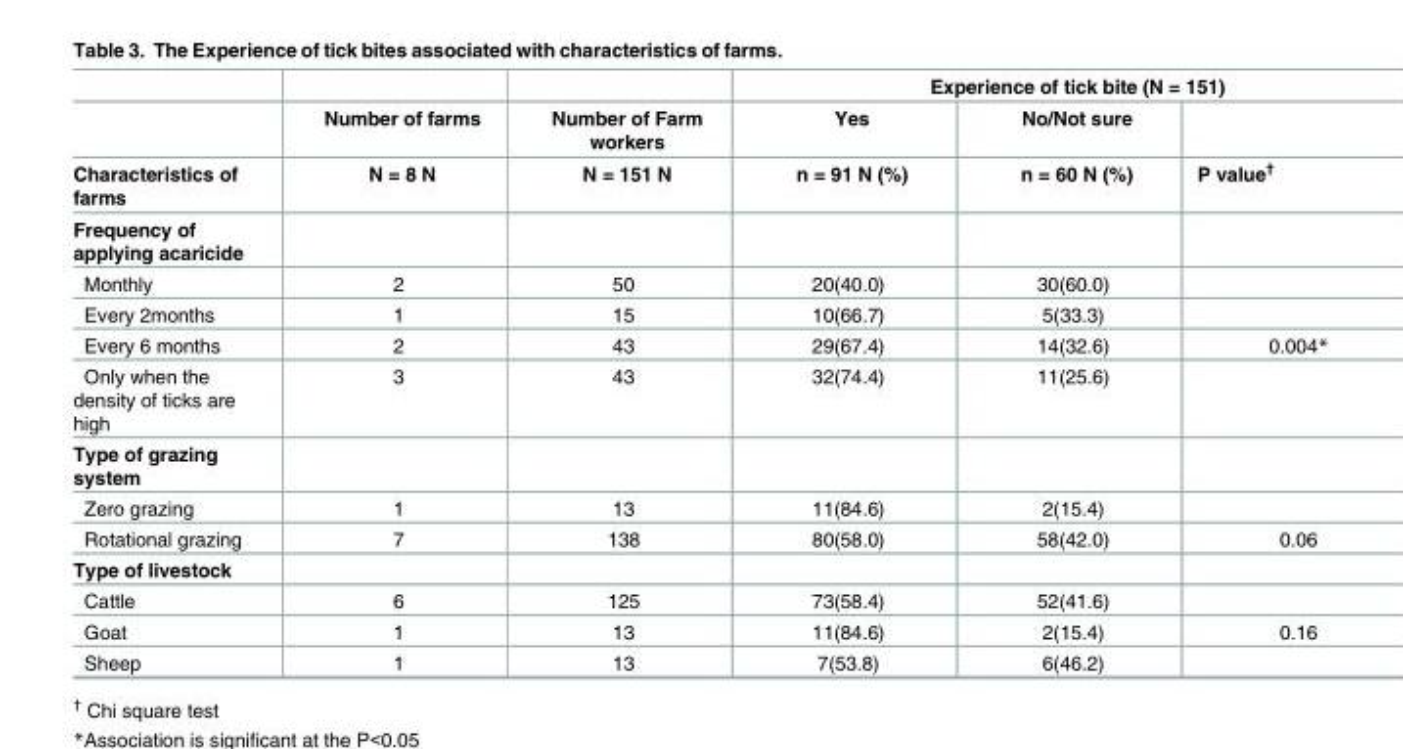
<table><thead><tr><td rowspan="3">Characteristics of farms</td><td rowspan="3">Number of farms N = 8 N</td><td rowspan="3">Number of Farm workers N = 151 N</td><td colspan="3">Experience of tick bite (N = 151)</td></tr><tr><td rowspan="2">Yes n = 91 N (%)</td><td rowspan="2">No/Not sure n = 60 N (%)</td><td rowspan="2">P value<sup>†</sup></td></tr><tr></tr></thead><tbody><tr><td colspan="6">Frequency of applying acaricide</td></tr><tr><td>Monthly</td><td>2</td><td>50</td><td>20(40.0)</td><td>30(60.0)</td><td></td></tr><tr><td>Every 2months</td><td>1</td><td>15</td><td>10(66.7)</td><td>5(33.3)</td><td></td></tr><tr><td>Every 6 months</td><td>2</td><td>43</td><td>29(67.4)</td><td>14(32.6)</td><td>0.004*</td></tr><tr><td>Only when the density of ticks are high</td><td>3</td><td>43</td><td>32(74.4)</td><td>11(25.6)</td><td></td></tr><tr><td colspan="6">Type of grazing system</td></tr><tr><td>Zero grazing</td><td>1</td><td>13</td><td>11(84.6)</td><td>2(15.4)</td><td></td></tr><tr><td>Rotational grazing</td><td>7</td><td>138</td><td>80(58.0)</td><td>58(42.0)</td><td>0.06</td></tr><tr><td colspan="6">Type of livestock</td></tr><tr><td>Cattle</td><td>6</td><td>125</td><td>73(58.4)</td><td>52(41.6)</td><td></td></tr><tr><td>Goat</td><td>1</td><td>13</td><td>11(84.6)</td><td>2(15.4)</td><td>0.16</td></tr><tr><td>Sheep</td><td>1</td><td>13</td><td>7(53.8)</td><td>6(46.2)</td><td></td></tr></tbody></table>